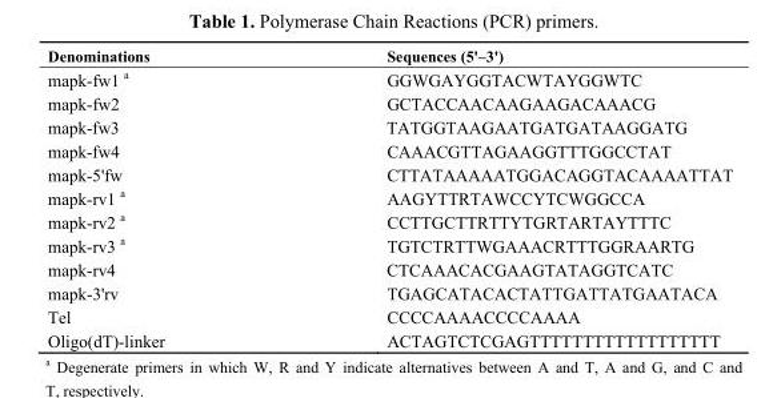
<table><thead><tr><td>Denominations</td><td>Sequences (5&#x27;–3&#x27;)</td></tr></thead><tbody><tr><td>mapk-fw1 a</td><td>GGWGAYGGTACWTAYGGWTC</td></tr><tr><td>mapk-fw2</td><td>GCTACCAACAAGAAGACAAACG</td></tr><tr><td>mapk-fw3</td><td>TATGGTAAGAATGATGATAAGGATG</td></tr><tr><td>mapk-fw4</td><td>CAAACGTTAGAAGGTTTGGCCTAT</td></tr><tr><td>mapk-5&#x27;fw</td><td>CTTATAAAAATGGACAGGTACAAAATTAT</td></tr><tr><td>mapk-rv1 a</td><td>AAGYTTRTAWCCYTCWGGCCA</td></tr><tr><td>mapk-rv2 a</td><td>CCTTGCTTRTTYTGRTARTAYTTTC</td></tr><tr><td>mapk-rv3 a</td><td>TGTCTRTTWGAAACRTTTGGRAARTG</td></tr><tr><td>mapk-rv4</td><td>CTCAAACACGAAGTATAGGTCATC</td></tr><tr><td>mapk-3&#x27;rv</td><td>TGAGCATACACTATTGATTATGAATACA</td></tr><tr><td>Tel</td><td>CCCCAAAACCCCAAAA</td></tr><tr><td>Oligo(dT)-linker</td><td>ACTAGTCTCGAGTTTTTTTTTTTTTTTTTT</td></tr></tbody></table>